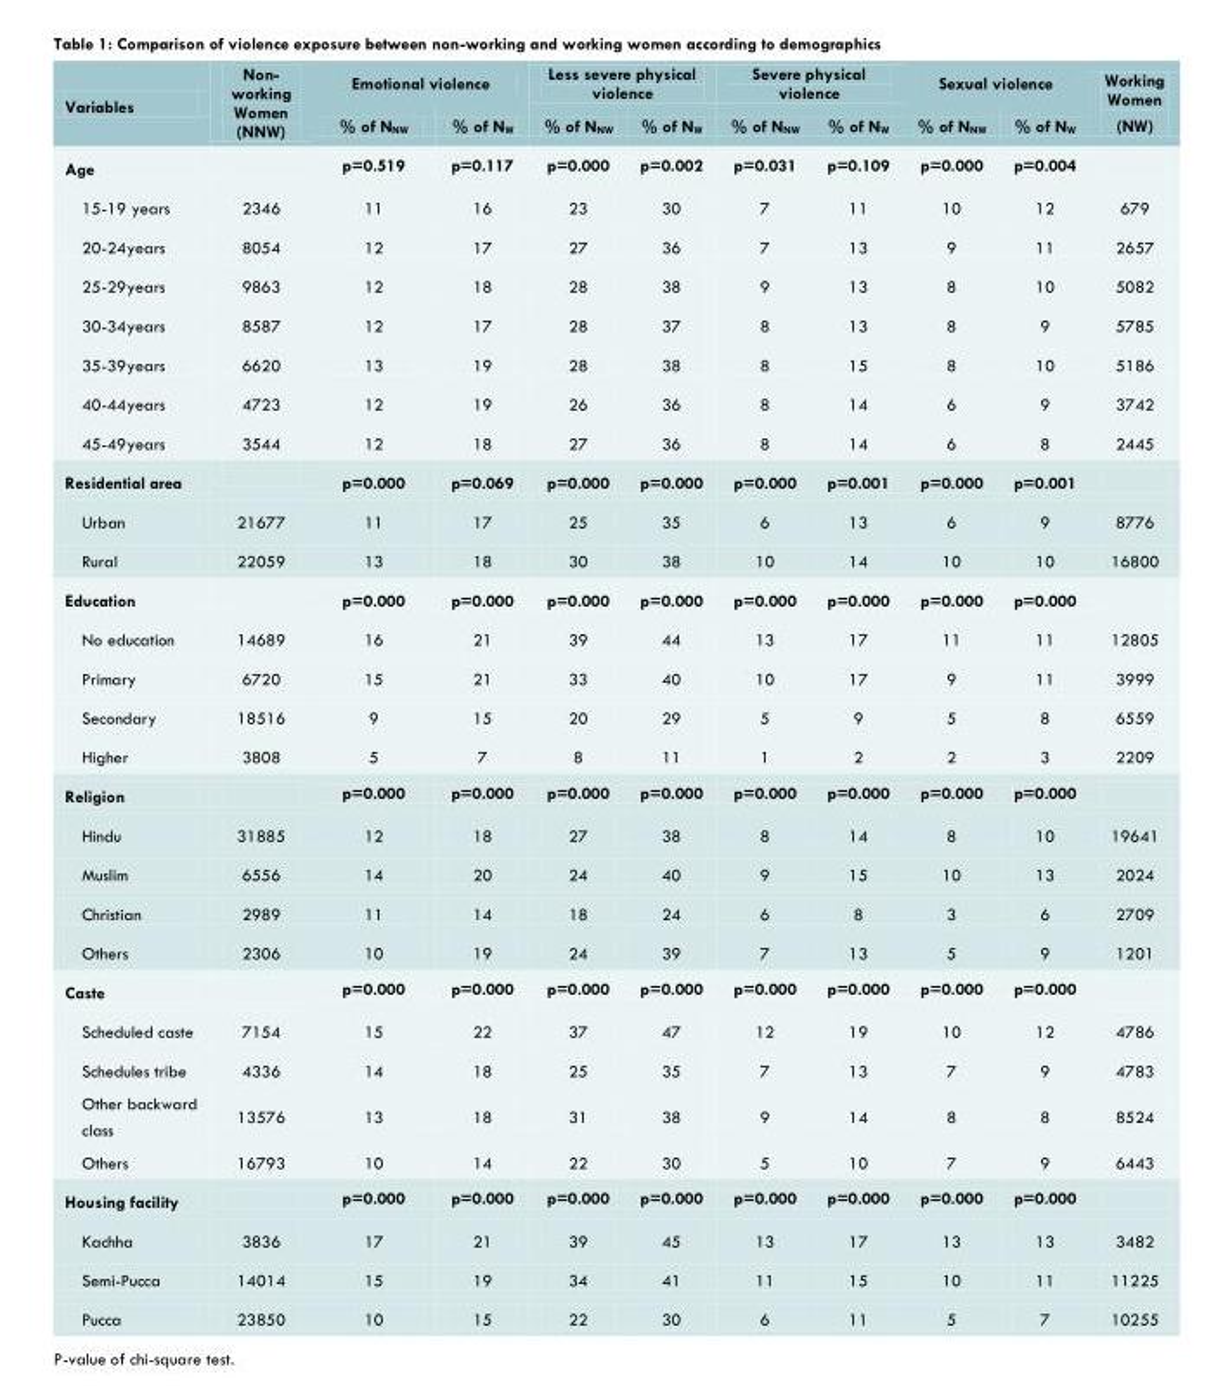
<table><thead><tr><td rowspan="2">Variables</td><td rowspan="2">Non- working Women (NNW)</td><td colspan="2">Emotional violence</td><td colspan="2">Less severe physical violence</td><td colspan="2">Severe physical violence</td><td colspan="2">Sexual violence</td><td rowspan="2">Working Women (NW)</td></tr><tr><td>% of NNW</td><td>% of NW</td><td>% of NNW</td><td>% of NW</td><td>% of NNW</td><td>% of NW</td><td>% of NNW</td><td>% of NW</td></tr></thead><tbody><tr><td>Age</td><td></td><td>p=0.519</td><td>p=0.117</td><td>p=0.000</td><td>p=0.002</td><td>p=0.031</td><td>p=0.109</td><td>p=0.000</td><td>p=0.004</td><td></td></tr><tr><td>15-19 years</td><td>2346</td><td>11</td><td>16</td><td>23</td><td>30</td><td>7</td><td>11</td><td>10</td><td>12</td><td>679</td></tr><tr><td>20-24years</td><td>8054</td><td>12</td><td>17</td><td>27</td><td>36</td><td>7</td><td>13</td><td>9</td><td>11</td><td>2657</td></tr><tr><td>25-29years</td><td>9863</td><td>12</td><td>18</td><td>28</td><td>38</td><td>9</td><td>13</td><td>8</td><td>10</td><td>5082</td></tr><tr><td>30-34years</td><td>8587</td><td>12</td><td>17</td><td>28</td><td>37</td><td>8</td><td>13</td><td>8</td><td>9</td><td>5785</td></tr><tr><td>35-39years</td><td>6620</td><td>13</td><td>19</td><td>28</td><td>38</td><td>8</td><td>15</td><td>8</td><td>10</td><td>5186</td></tr><tr><td>40-44years</td><td>4723</td><td>12</td><td>19</td><td>26</td><td>36</td><td>8</td><td>14</td><td>6</td><td>9</td><td>3742</td></tr><tr><td>45-49years</td><td>3544</td><td>12</td><td>18</td><td>27</td><td>36</td><td>8</td><td>14</td><td>6</td><td>8</td><td>2445</td></tr><tr><td>Residential area</td><td></td><td>p=0.000</td><td>p=0.069</td><td>p=0.000</td><td>p=0.000</td><td>p=0.000</td><td>p=0.001</td><td>p=0.000</td><td>p=0.001</td><td></td></tr><tr><td>Urban</td><td>21677</td><td>11</td><td>17</td><td>25</td><td>35</td><td>6</td><td>13</td><td>6</td><td>9</td><td>8776</td></tr><tr><td>Rural</td><td>22059</td><td>13</td><td>18</td><td>30</td><td>38</td><td>10</td><td>14</td><td>10</td><td>10</td><td>16800</td></tr><tr><td>Education</td><td></td><td>p=0.000</td><td>p=0.000</td><td>p=0.000</td><td>p=0.000</td><td>p=0.000</td><td>p=0.000</td><td>p=0.000</td><td>p=0.000</td><td></td></tr><tr><td>No education</td><td>14689</td><td>16</td><td>21</td><td>39</td><td>44</td><td>13</td><td>17</td><td>11</td><td>11</td><td>12805</td></tr><tr><td>Primary</td><td>6720</td><td>15</td><td>21</td><td>33</td><td>40</td><td>10</td><td>17</td><td>9</td><td>11</td><td>3999</td></tr><tr><td>Secondary</td><td>18516</td><td>9</td><td>15</td><td>20</td><td>29</td><td>5</td><td>9</td><td>5</td><td>8</td><td>6559</td></tr><tr><td>Higher</td><td>3808</td><td>5</td><td>7</td><td>8</td><td>11</td><td>1</td><td>2</td><td>2</td><td>3</td><td>2209</td></tr><tr><td>Religion</td><td></td><td>p=0.000</td><td>p=0.000</td><td>p=0.000</td><td>p=0.000</td><td>p=0.000</td><td>p=0.000</td><td>p=0.000</td><td>p=0.000</td><td></td></tr><tr><td>Hindu</td><td>31885</td><td>12</td><td>18</td><td>27</td><td>38</td><td>8</td><td>14</td><td>8</td><td>10</td><td>19641</td></tr><tr><td>Muslim</td><td>6556</td><td>14</td><td>20</td><td>24</td><td>40</td><td>9</td><td>15</td><td>10</td><td>13</td><td>2024</td></tr><tr><td>Christian</td><td>2989</td><td>11</td><td>14</td><td>18</td><td>24</td><td>6</td><td>8</td><td>3</td><td>6</td><td>2709</td></tr><tr><td>Others</td><td>2306</td><td>10</td><td>19</td><td>24</td><td>39</td><td>7</td><td>13</td><td>5</td><td>9</td><td>1201</td></tr><tr><td>Caste</td><td></td><td>p=0.000</td><td>p=0.000</td><td>p=0.000</td><td>p=0.000</td><td>p=0.000</td><td>p=0.000</td><td>p=0.000</td><td>p=0.000</td><td></td></tr><tr><td>Scheduled caste</td><td>7154</td><td>15</td><td>22</td><td>37</td><td>47</td><td>12</td><td>19</td><td>10</td><td>12</td><td>4786</td></tr><tr><td>Schedules tribe</td><td>4336</td><td>14</td><td>18</td><td>25</td><td>35</td><td>7</td><td>13</td><td>7</td><td>9</td><td>4783</td></tr><tr><td>Other backward class</td><td>13576</td><td>13</td><td>18</td><td>31</td><td>38</td><td>9</td><td>14</td><td>8</td><td>8</td><td>8524</td></tr><tr><td>Others</td><td>16793</td><td>10</td><td>14</td><td>22</td><td>30</td><td>5</td><td>10</td><td>7</td><td>9</td><td>6443</td></tr><tr><td>Housing facility</td><td></td><td>p=0.000</td><td>p=0.000</td><td>p=0.000</td><td>p=0.000</td><td>p=0.000</td><td>p=0.000</td><td>p=0.000</td><td>p=0.000</td><td></td></tr><tr><td>Kachha</td><td>3836</td><td>17</td><td>21</td><td>39</td><td>45</td><td>13</td><td>17</td><td>13</td><td>13</td><td>3482</td></tr><tr><td>Semi-Pucca</td><td>14014</td><td>15</td><td>19</td><td>34</td><td>41</td><td>11</td><td>15</td><td>10</td><td>11</td><td>11225</td></tr><tr><td>Pucca</td><td>23850</td><td>10</td><td>15</td><td>22</td><td>30</td><td>6</td><td>11</td><td>5</td><td>7</td><td>10255</td></tr></tbody></table>